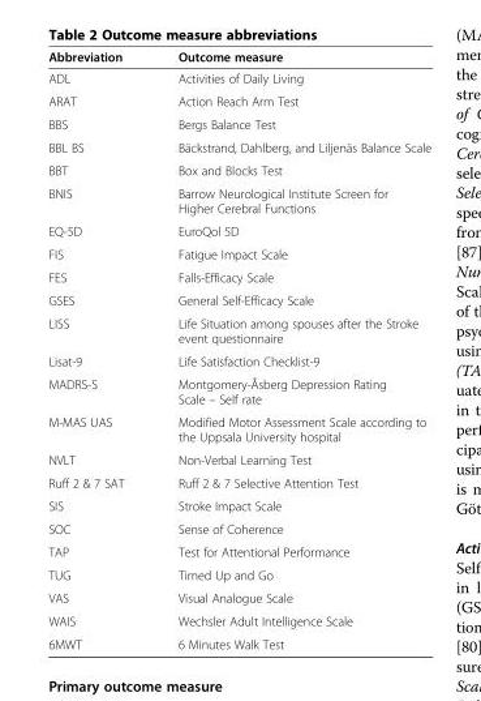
<table><thead><tr><td>Abbreviation</td><td>Outcome measure</td></tr></thead><tbody><tr><td>ADL</td><td>Activities of Daily Living</td></tr><tr><td>ARAT</td><td>Action Reach Arm Test</td></tr><tr><td>BBS</td><td>Bergs Balance Test</td></tr><tr><td>BBL BS</td><td>Bäckstrand, Dahlberg, and Liljenäs Balance Scale</td></tr><tr><td>BBT</td><td>Box and Blocks Test</td></tr><tr><td>BNIS</td><td>Barrow Neurological Institute Screen for Higher Cerebral Functions</td></tr><tr><td>EQ-5D</td><td>EuroQol 5D</td></tr><tr><td>FIS</td><td>Fatigue Impact Scale</td></tr><tr><td>FES</td><td>Falls-Efficacy Scale</td></tr><tr><td>GSES</td><td>General Self-Efficacy Scale</td></tr><tr><td>LISS</td><td>Life Situation among spouses after the Stroke event questionnaire</td></tr><tr><td>Lisat-9</td><td>Life Satisfaction Checklist-9</td></tr><tr><td>MADRS-S</td><td>Montgomery-Åsberg Depression Rating Scale – Self rate</td></tr><tr><td>M-MAS UAS</td><td>Modified Motor Assessment Scale according to the Uppsala University hospital</td></tr><tr><td>NVLT</td><td>Non-Verbal Learning Test</td></tr><tr><td>Ruff 2 &amp; 7 SAT</td><td>Ruff 2 &amp; 7 Selective Attention Test</td></tr><tr><td>SIS</td><td>Stroke Impact Scale</td></tr><tr><td>SOC</td><td>Sense of Coherence</td></tr><tr><td>TAP</td><td>Test for Attentional Performance</td></tr><tr><td>TUG</td><td>Timed Up and Go</td></tr><tr><td>VAS</td><td>Visual Analogue Scale</td></tr><tr><td>WAIS</td><td>Wechsler Adult Intelligence Scale</td></tr><tr><td>6MWT</td><td>6 Minutes Walk Test</td></tr></tbody></table>